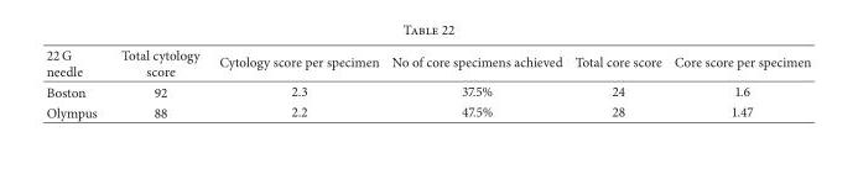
<table><thead><tr><td>22 G needle</td><td>Total cytology score</td><td>Cytology score per specimen</td><td>No of core specimens achieved</td><td>Total core score</td><td>Core score per specimen</td></tr></thead><tbody><tr><td>Boston</td><td>92</td><td>2.3</td><td>37.5%</td><td>24</td><td>1.6</td></tr><tr><td>Olympus</td><td>88</td><td>2.2</td><td>47.5%</td><td>28</td><td>1.47</td></tr></tbody></table>